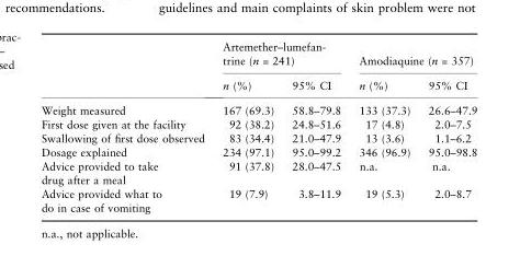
<table><thead><tr><td rowspan="2"></td><td colspan="2">Artemether–lumefan- trine (n = 241)</td><td colspan="2">Amodiaquine (n = 357)</td></tr><tr><td>n (%)</td><td>95% CI</td><td>n (%)</td><td>95% CI</td></tr></thead><tbody><tr><td>Weight measured</td><td>167 (69.3)</td><td>58.8–79.8</td><td>133 (37.3)</td><td>26.6–47.9</td></tr><tr><td>First dose given at the facility</td><td>92 (38.2)</td><td>24.8–51.6</td><td>17 (4.8)</td><td>2.0–7.5</td></tr><tr><td>Swallowing of first dose observed</td><td>83 (34.4)</td><td>21.0–47.9</td><td>13 (3.6)</td><td>1.1–6.2</td></tr><tr><td>Dosage explained</td><td>234 (97.1)</td><td>95.0–99.2</td><td>346 (96.9)</td><td>95.0–98.8</td></tr><tr><td>Advice provided to take drug after a meal</td><td>91 (37.8)</td><td>28.0–47.5</td><td>n.a.</td><td>n.a.</td></tr><tr><td>Advice provided what to do in case of vomiting</td><td>19 (7.9)</td><td>3.8–11.9</td><td>19 (5.3)</td><td>2.0–8.7</td></tr></tbody></table>